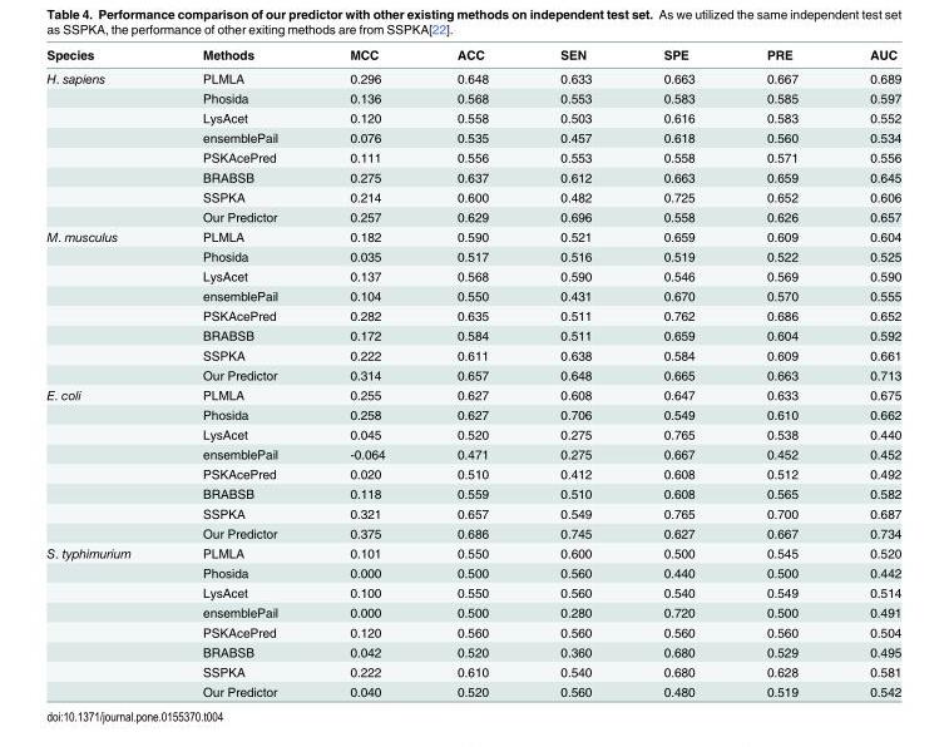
<table><thead><tr><td>Species</td><td>Methods</td><td>MCC</td><td>ACC</td><td>SEN</td><td>SPE</td><td>PRE</td><td>AUC</td></tr></thead><tbody><tr><td rowspan="8">H. sapiens</td><td>PLMLA</td><td>0.296</td><td>0.648</td><td>0.633</td><td>0.663</td><td>0.667</td><td>0.689</td></tr><tr><td>Phosida</td><td>0.136</td><td>0.568</td><td>0.553</td><td>0.583</td><td>0.585</td><td>0.597</td></tr><tr><td>LysAcet</td><td>0.120</td><td>0.558</td><td>0.503</td><td>0.616</td><td>0.583</td><td>0.552</td></tr><tr><td>ensemblePail</td><td>0.076</td><td>0.535</td><td>0.457</td><td>0.618</td><td>0.560</td><td>0.534</td></tr><tr><td>PSKAcePred</td><td>0.111</td><td>0.556</td><td>0.553</td><td>0.558</td><td>0.571</td><td>0.556</td></tr><tr><td>BRABSB</td><td>0.275</td><td>0.637</td><td>0.612</td><td>0.663</td><td>0.659</td><td>0.645</td></tr><tr><td>SSPKA</td><td>0.214</td><td>0.600</td><td>0.482</td><td>0.725</td><td>0.652</td><td>0.606</td></tr><tr><td>Our Predictor</td><td>0.257</td><td>0.629</td><td>0.696</td><td>0.558</td><td>0.626</td><td>0.657</td></tr><tr><td rowspan="8">M. musculus</td><td>PLMLA</td><td>0.182</td><td>0.590</td><td>0.521</td><td>0.659</td><td>0.609</td><td>0.604</td></tr><tr><td>Phosida</td><td>0.035</td><td>0.517</td><td>0.516</td><td>0.519</td><td>0.522</td><td>0.525</td></tr><tr><td>LysAcet</td><td>0.137</td><td>0.568</td><td>0.590</td><td>0.546</td><td>0.569</td><td>0.590</td></tr><tr><td>ensemblePail</td><td>0.104</td><td>0.550</td><td>0.431</td><td>0.670</td><td>0.570</td><td>0.555</td></tr><tr><td>PSKAcePred</td><td>0.282</td><td>0.635</td><td>0.511</td><td>0.762</td><td>0.686</td><td>0.652</td></tr><tr><td>BRABSB</td><td>0.172</td><td>0.584</td><td>0.511</td><td>0.659</td><td>0.604</td><td>0.592</td></tr><tr><td>SSPKA</td><td>0.222</td><td>0.611</td><td>0.638</td><td>0.584</td><td>0.609</td><td>0.661</td></tr><tr><td>Our Predictor</td><td>0.314</td><td>0.657</td><td>0.648</td><td>0.665</td><td>0.663</td><td>0.713</td></tr><tr><td rowspan="8">E. coli</td><td>PLMLA</td><td>0.255</td><td>0.627</td><td>0.608</td><td>0.647</td><td>0.633</td><td>0.675</td></tr><tr><td>Phosida</td><td>0.258</td><td>0.627</td><td>0.706</td><td>0.549</td><td>0.610</td><td>0.662</td></tr><tr><td>LysAcet</td><td>0.045</td><td>0.520</td><td>0.275</td><td>0.765</td><td>0.538</td><td>0.440</td></tr><tr><td>ensemblePail</td><td>-0.064</td><td>0.471</td><td>0.275</td><td>0.667</td><td>0.452</td><td>0.452</td></tr><tr><td>PSKAcePred</td><td>0.020</td><td>0.510</td><td>0.412</td><td>0.608</td><td>0.512</td><td>0.492</td></tr><tr><td>BRABSB</td><td>0.118</td><td>0.559</td><td>0.510</td><td>0.608</td><td>0.565</td><td>0.582</td></tr><tr><td>SSPKA</td><td>0.321</td><td>0.657</td><td>0.549</td><td>0.765</td><td>0.700</td><td>0.687</td></tr><tr><td>Our Predictor</td><td>0.375</td><td>0.686</td><td>0.745</td><td>0.627</td><td>0.667</td><td>0.734</td></tr><tr><td rowspan="8">S. typhimurium</td><td>PLMLA</td><td>0.101</td><td>0.550</td><td>0.600</td><td>0.500</td><td>0.545</td><td>0.520</td></tr><tr><td>Phosida</td><td>0.000</td><td>0.500</td><td>0.560</td><td>0.440</td><td>0.500</td><td>0.442</td></tr><tr><td>LysAcet</td><td>0.100</td><td>0.550</td><td>0.560</td><td>0.540</td><td>0.549</td><td>0.514</td></tr><tr><td>ensemblePail</td><td>0.000</td><td>0.500</td><td>0.280</td><td>0.720</td><td>0.500</td><td>0.491</td></tr><tr><td>PSKAcePred</td><td>0.120</td><td>0.560</td><td>0.560</td><td>0.560</td><td>0.560</td><td>0.504</td></tr><tr><td>BRABSB</td><td>0.042</td><td>0.520</td><td>0.360</td><td>0.680</td><td>0.529</td><td>0.495</td></tr><tr><td>SSPKA</td><td>0.222</td><td>0.610</td><td>0.540</td><td>0.680</td><td>0.628</td><td>0.581</td></tr><tr><td>Our Predictor</td><td>0.040</td><td>0.520</td><td>0.560</td><td>0.480</td><td>0.519</td><td>0.542</td></tr></tbody></table>